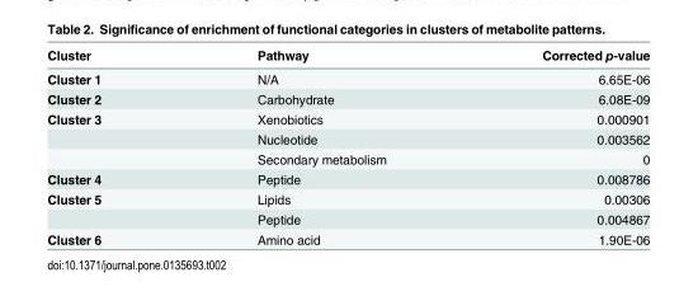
<table><thead><tr><td>Cluster</td><td>Pathway</td><td>Corrected p-value</td></tr></thead><tbody><tr><td>Cluster 1</td><td>N/A</td><td>6.65E-06</td></tr><tr><td>Cluster 2</td><td>Carbohydrate</td><td>6.08E-09</td></tr><tr><td rowspan="3">Cluster 3</td><td>Xenobiotics</td><td>0.000901</td></tr><tr><td>Nucleotide</td><td>0.003562</td></tr><tr><td>Secondary metabolism</td><td>0</td></tr><tr><td>Cluster 4</td><td>Peptide</td><td>0.008786</td></tr><tr><td rowspan="2">Cluster 5</td><td>Lipids</td><td>0.00306</td></tr><tr><td>Peptide</td><td>0.004867</td></tr><tr><td>Cluster 6</td><td>Amino acid</td><td>1.90E-06</td></tr></tbody></table>